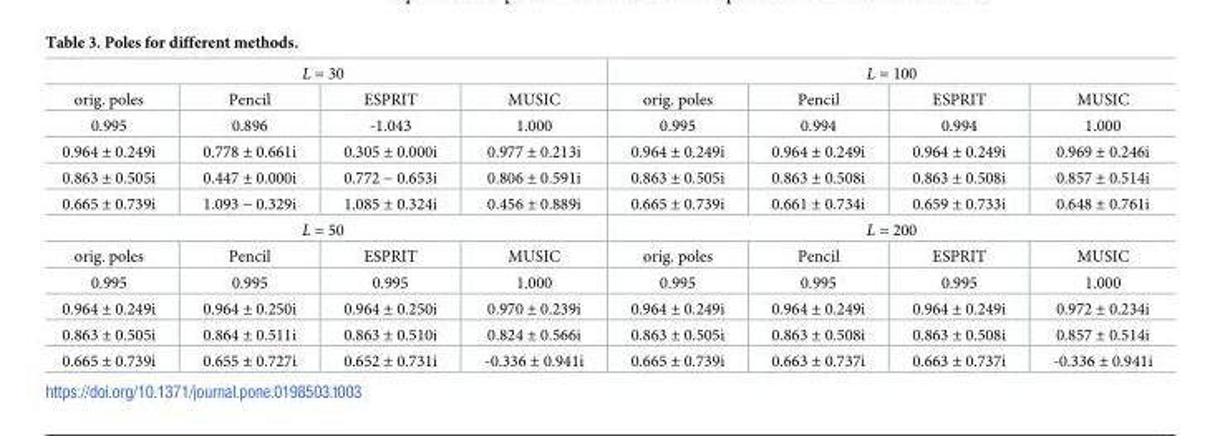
<table><tbody><tr><td colspan="4">L = 30</td><td colspan="4">L = 100</td></tr><tr><td>orig. poles</td><td>Pencil</td><td>ESPRIT</td><td>MUSIC</td><td>orig. poles</td><td>Pencil</td><td>ESPRIT</td><td>MUSIC</td></tr><tr><td>0.995</td><td>0.896</td><td>-1.043</td><td>1.000</td><td>0.995</td><td>0.994</td><td>0.994</td><td>1.000</td></tr><tr><td>0.964 ± 0.249i</td><td>0.778 ± 0.661i</td><td>0.305 ± 0.000i</td><td>0.977 ± 0.213i</td><td>0.964 ± 0.249i</td><td>0.964 ± 0.249i</td><td>0.964 ± 0.249i</td><td>0.969 ± 0.246i</td></tr><tr><td>0.863 ± 0.505i</td><td>0.447 ± 0.000i</td><td>0.772 − 0.653i</td><td>0.806 ± 0.591i</td><td>0.863 ± 0.505i</td><td>0.863 ± 0.508i</td><td>0.863 ± 0.508i</td><td>0.857 ± 0.514i</td></tr><tr><td>0.665 ± 0.739i</td><td>1.093 − 0.329i</td><td>1.085 ± 0.324i</td><td>0.456 ± 0.889i</td><td>0.665 ± 0.739i</td><td>0.661 ± 0.734i</td><td>0.659 ± 0.733i</td><td>0.648 ± 0.761i</td></tr><tr><td colspan="4">L = 50</td><td colspan="4">L = 200</td></tr><tr><td>orig. poles</td><td>Pencil</td><td>ESPRIT</td><td>MUSIC</td><td>orig. poles</td><td>Pencil</td><td>ESPRIT</td><td>MUSIC</td></tr><tr><td>0.995</td><td>0.995</td><td>0.995</td><td>1.000</td><td>0.995</td><td>0.995</td><td>0.995</td><td>1.000</td></tr><tr><td>0.964 ± 0.249i</td><td>0.964 ± 0.250i</td><td>0.964 ± 0.250i</td><td>0.970 ± 0.239i</td><td>0.964 ± 0.249i</td><td>0.964 ± 0.249i</td><td>0.964 ± 0.249i</td><td>0.972 ± 0.234i</td></tr><tr><td>0.863 ± 0.505i</td><td>0.864 ± 0.511i</td><td>0.863 ± 0.510i</td><td>0.824 ± 0.566i</td><td>0.863 ± 0.505i</td><td>0.863 ± 0.508i</td><td>0.863 ± 0.508i</td><td>0.857 ± 0.514i</td></tr><tr><td>0.665 ± 0.739i</td><td>0.655 ± 0.727i</td><td>0.652 ± 0.731i</td><td>-0.336 ± 0.941i</td><td>0.665 ± 0.739i</td><td>0.663 ± 0.737i</td><td>0.663 ± 0.737i</td><td>-0.336 ± 0.941i</td></tr></tbody></table>